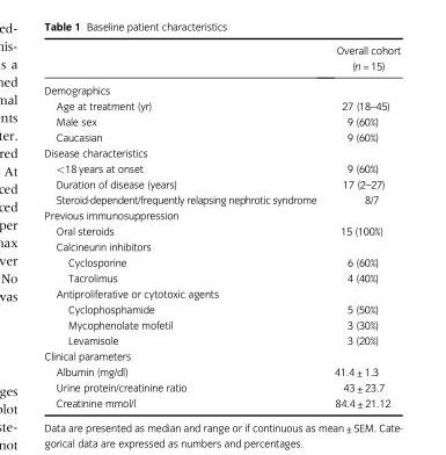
<table><thead><tr><td></td><td>Overall cohort (n = 15)</td></tr></thead><tbody><tr><td colspan="2">Demographics</td></tr><tr><td>Age at treatment (yr)</td><td>27 (18–45)</td></tr><tr><td>Male sex</td><td>9 (60%)</td></tr><tr><td>Caucasian</td><td>9 (60%)</td></tr><tr><td colspan="2">Disease characteristics</td></tr><tr><td>&lt;18 years at onset</td><td>9 (60%)</td></tr><tr><td>Duration of disease (years)</td><td>17 (2–27)</td></tr><tr><td>Steroid-dependent/frequently relapsing nephrotic syndrome</td><td>8/7</td></tr><tr><td colspan="2">Previous immunosuppression</td></tr><tr><td>Oral steroids</td><td>15 (100%)</td></tr><tr><td colspan="2">Calcineurin inhibitors</td></tr><tr><td>Cyclosporine</td><td>6 (60%)</td></tr><tr><td>Tacrolimus</td><td>4 (40%)</td></tr><tr><td colspan="2">Antiproliferative or cytotoxic agents</td></tr><tr><td>Cyclophosphamide</td><td>5 (50%)</td></tr><tr><td>Mycophenolate mofetil</td><td>3 (30%)</td></tr><tr><td>Levamisole</td><td>3 (20%)</td></tr><tr><td colspan="2">Clinical parameters</td></tr><tr><td>Albumin (mg/dl)</td><td>41.4 ± 1.3</td></tr><tr><td>Urine protein/creatinine ratio</td><td>43 ± 23.7</td></tr><tr><td>Creatinine mmol/l</td><td>84.4 ± 21.12</td></tr></tbody></table>